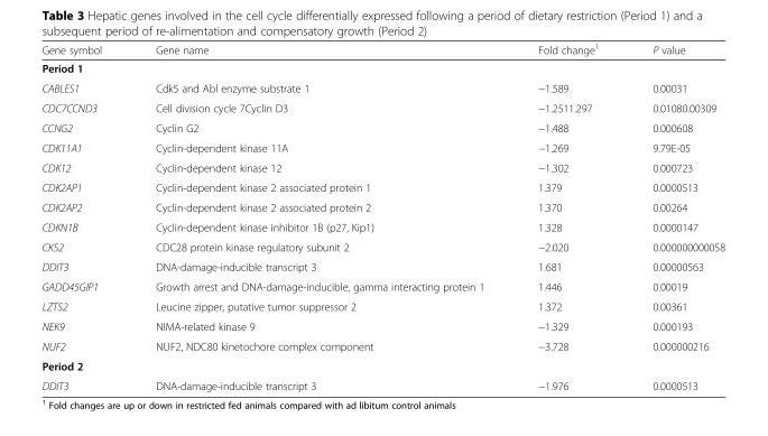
<table><thead><tr><td>Gene symbol</td><td>Gene name</td><td>Fold change<sup>1</sup></td><td>P value</td></tr></thead><tbody><tr><td colspan="4">Period 1</td></tr><tr><td>CABLES1</td><td>Cdk5 and Abl enzyme substrate 1</td><td>−1.589</td><td>0.00031</td></tr><tr><td>CDC7CCND3</td><td>Cell division cycle 7Cyclin D3</td><td>−1.2511.297</td><td>0.01080.00309</td></tr><tr><td>CCNG2</td><td>Cyclin G2</td><td>−1.488</td><td>0.000608</td></tr><tr><td>CDK11A1</td><td>Cyclin-dependent kinase 11A</td><td>−1.269</td><td>9.79E-05</td></tr><tr><td>CDK12</td><td>Cyclin-dependent kinase 12</td><td>−1.302</td><td>0.000723</td></tr><tr><td>CDK2AP1</td><td>Cyclin-dependent kinase 2 associated protein 1</td><td>1.379</td><td>0.0000513</td></tr><tr><td>CDK2AP2</td><td>Cyclin-dependent kinase 2 associated protein 2</td><td>1.370</td><td>0.00264</td></tr><tr><td>CDKN1B</td><td>Cyclin-dependent kinase inhibitor 1B (p27, Kip1)</td><td>1.328</td><td>0.0000147</td></tr><tr><td>CKS2</td><td>CDC28 protein kinase regulatory subunit 2</td><td>−2.020</td><td>0.000000000058</td></tr><tr><td>DDIT3</td><td>DNA-damage-inducible transcript 3</td><td>1.681</td><td>0.00000563</td></tr><tr><td>GADD45GIP1</td><td>Growth arrest and DNA-damage-inducible, gamma interacting protein 1</td><td>1.446</td><td>0.00019</td></tr><tr><td>LZTS2</td><td>Leucine zipper, putative tumor suppressor 2</td><td>1.372</td><td>0.00361</td></tr><tr><td>NEK9</td><td>NIMA-related kinase 9</td><td>−1.329</td><td>0.000193</td></tr><tr><td>NUF2</td><td>NUF2, NDC80 kinetochore complex component</td><td>−3.728</td><td>0.000000216</td></tr><tr><td colspan="4">Period 2</td></tr><tr><td>DDIT3</td><td>DNA-damage-inducible transcript 3</td><td>−1.976</td><td>0.0000513</td></tr></tbody></table>